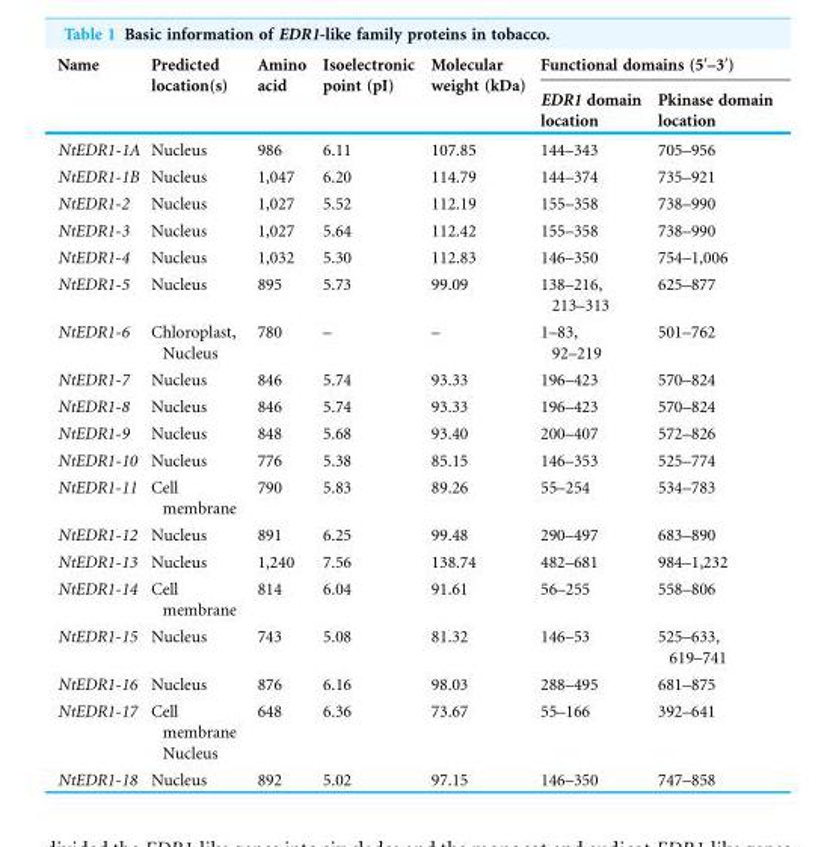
<table><thead><tr><td rowspan="2">Name</td><td rowspan="2">Predicted location(s)</td><td rowspan="2">Amino acid</td><td rowspan="2">Isoelectronic point (pI)</td><td rowspan="2">Molecular weight (kDa)</td><td colspan="2">Functional domains (5′–3′)</td></tr><tr><td>EDR1 domain location</td><td>Pkinase domain location</td></tr></thead><tbody><tr><td>NtEDR1-1A</td><td>Nucleus</td><td>986</td><td>6.11</td><td>107.85</td><td>144–343</td><td>705–956</td></tr><tr><td>NtEDR1-1B</td><td>Nucleus</td><td>1,047</td><td>6.20</td><td>114.79</td><td>144–374</td><td>735–921</td></tr><tr><td>NtEDR1-2</td><td>Nucleus</td><td>1,027</td><td>5.52</td><td>112.19</td><td>155–358</td><td>738–990</td></tr><tr><td>NtEDR1-3</td><td>Nucleus</td><td>1,027</td><td>5.64</td><td>112.42</td><td>155–358</td><td>738–990</td></tr><tr><td>NtEDR1-4</td><td>Nucleus</td><td>1,032</td><td>5.30</td><td>112.83</td><td>146–350</td><td>754–1,006</td></tr><tr><td>NtEDR1-5</td><td>Nucleus</td><td>895</td><td>5.73</td><td>99.09</td><td>138–216, 213–313</td><td>625–877</td></tr><tr><td>NtEDR1-6</td><td>Chloroplast, Nucleus</td><td>780</td><td>–</td><td>–</td><td>1–83, 92–219</td><td>501–762</td></tr><tr><td>NtEDR1-7</td><td>Nucleus</td><td>846</td><td>5.74</td><td>93.33</td><td>196–423</td><td>570–824</td></tr><tr><td>NtEDR1-8</td><td>Nucleus</td><td>846</td><td>5.74</td><td>93.33</td><td>196–423</td><td>570–824</td></tr><tr><td>NtEDR1-9</td><td>Nucleus</td><td>848</td><td>5.68</td><td>93.40</td><td>200–407</td><td>572–826</td></tr><tr><td>NtEDR1-10</td><td>Nucleus</td><td>776</td><td>5.38</td><td>85.15</td><td>146–353</td><td>525–774</td></tr><tr><td>NtEDR1-11</td><td>Cell membrane</td><td>790</td><td>5.83</td><td>89.26</td><td>55–254</td><td>534–783</td></tr><tr><td>NtEDR1-12</td><td>Nucleus</td><td>891</td><td>6.25</td><td>99.48</td><td>290–497</td><td>683–890</td></tr><tr><td>NtEDR1-13</td><td>Nucleus</td><td>1,240</td><td>7.56</td><td>138.74</td><td>482–681</td><td>984–1,232</td></tr><tr><td>NtEDR1-14</td><td>Cell membrane</td><td>814</td><td>6.04</td><td>91.61</td><td>56–255</td><td>558–806</td></tr><tr><td>NtEDR1-15</td><td>Nucleus</td><td>743</td><td>5.08</td><td>81.32</td><td>146–53</td><td>525–633, 619–741</td></tr><tr><td>NtEDR1-16</td><td>Nucleus</td><td>876</td><td>6.16</td><td>98.03</td><td>288–495</td><td>681–875</td></tr><tr><td>NtEDR1-17</td><td>Cell membrane Nucleus</td><td>648</td><td>6.36</td><td>73.67</td><td>55–166</td><td>392–641</td></tr><tr><td>NtEDR1-18</td><td>Nucleus</td><td>892</td><td>5.02</td><td>97.15</td><td>146–350</td><td>747–858</td></tr></tbody></table>